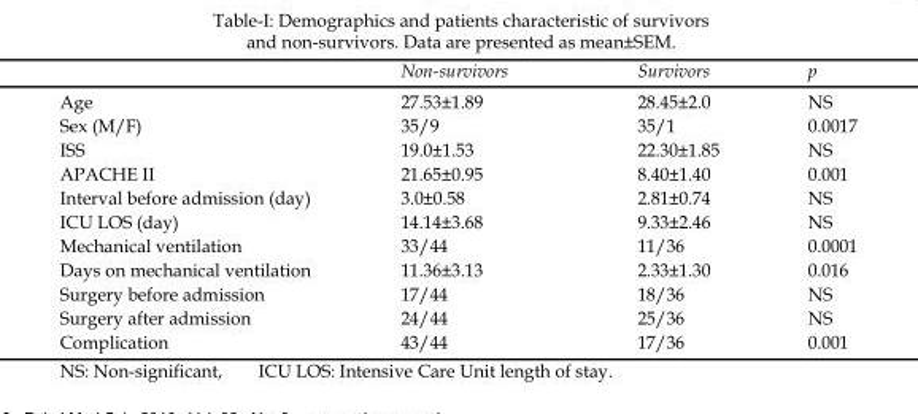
<table><thead><tr><td></td><td>Non-survivors</td><td>Survivors</td><td>p</td></tr></thead><tbody><tr><td>Age</td><td>27.53±1.89</td><td>28.45±2.0</td><td>NS</td></tr><tr><td>Sex (M/F)</td><td>35/9</td><td>35/1</td><td>0.0017</td></tr><tr><td>ISS</td><td>19.0±1.53</td><td>22.30±1.85</td><td>NS</td></tr><tr><td>APACHE II</td><td>21.65±0.95</td><td>8.40±1.40</td><td>0.001</td></tr><tr><td>Interval before admission (day)</td><td>3.0±0.58</td><td>2.81±0.74</td><td>NS</td></tr><tr><td>ICU LOS (day)</td><td>14.14±3.68</td><td>9.33±2.46</td><td>NS</td></tr><tr><td>Mechanical ventilation</td><td>33/44</td><td>11/36</td><td>0.0001</td></tr><tr><td>Days on mechanical ventilation</td><td>11.36±3.13</td><td>2.33±1.30</td><td>0.016</td></tr><tr><td>Surgery before admission</td><td>17/44</td><td>18/36</td><td>NS</td></tr><tr><td>Surgery after admission</td><td>24/44</td><td>25/36</td><td>NS</td></tr><tr><td>Complication</td><td>43/44</td><td>17/36</td><td>0.001</td></tr></tbody></table>